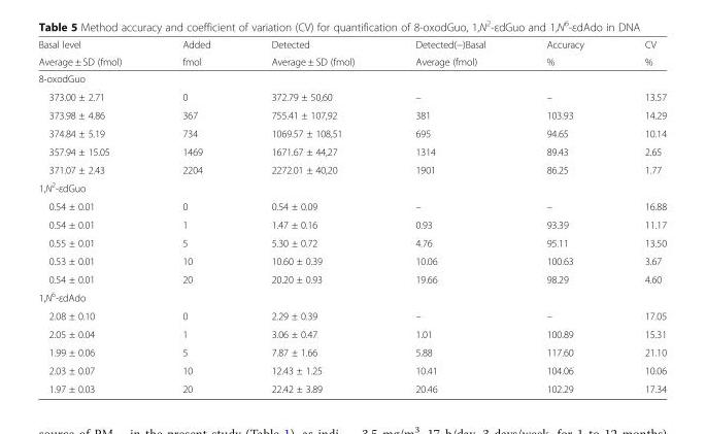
<table><thead><tr><td rowspan="2">Basal level Average ± SD (fmol)</td><td rowspan="2">Added fmol</td><td rowspan="2">Detected Average ± SD (fmol)</td><td rowspan="2">Detected(−)Basal Average (fmol)</td><td rowspan="2">Accuracy %</td><td rowspan="2">CV %</td></tr><tr></tr></thead><tbody><tr><td colspan="6">8-oxodGuo</td></tr><tr><td>373.00 ± 2.71</td><td>0</td><td>372.79 ± 50,60</td><td>–</td><td>–</td><td>13.57</td></tr><tr><td>373.98 ± 4.86</td><td>367</td><td>755.41 ± 107,92</td><td>381</td><td>103.93</td><td>14.29</td></tr><tr><td>374.84 ± 5.19</td><td>734</td><td>1069.57 ± 108,51</td><td>695</td><td>94.65</td><td>10.14</td></tr><tr><td>357.94 ± 15.05</td><td>1469</td><td>1671.67 ± 44,27</td><td>1314</td><td>89.43</td><td>2.65</td></tr><tr><td>371.07 ± 2.43</td><td>2204</td><td>2272.01 ± 40,20</td><td>1901</td><td>86.25</td><td>1.77</td></tr><tr><td colspan="6">1,N<sup>2</sup>-εdGuo</td></tr><tr><td>0.54 ± 0.01</td><td>0</td><td>0.54 ± 0.09</td><td>–</td><td>–</td><td>16.88</td></tr><tr><td>0.54 ± 0.01</td><td>1</td><td>1.47 ± 0.16</td><td>0.93</td><td>93.39</td><td>11.17</td></tr><tr><td>0.55 ± 0.01</td><td>5</td><td>5.30 ± 0.72</td><td>4.76</td><td>95.11</td><td>13.50</td></tr><tr><td>0.53 ± 0.01</td><td>10</td><td>10.60 ± 0.39</td><td>10.06</td><td>100.63</td><td>3.67</td></tr><tr><td>0.54 ± 0.01</td><td>20</td><td>20.20 ± 0.93</td><td>19.66</td><td>98.29</td><td>4.60</td></tr><tr><td colspan="6">1,N<sup>6</sup>-εdAdo</td></tr><tr><td>2.08 ± 0.10</td><td>0</td><td>2.29 ± 0.39</td><td>–</td><td>–</td><td>17.05</td></tr><tr><td>2.05 ± 0.04</td><td>1</td><td>3.06 ± 0.47</td><td>1.01</td><td>100.89</td><td>15.31</td></tr><tr><td>1.99 ± 0.06</td><td>5</td><td>7.87 ± 1.66</td><td>5.88</td><td>117.60</td><td>21.10</td></tr><tr><td>2.03 ± 0.07</td><td>10</td><td>12.43 ± 1.25</td><td>10.41</td><td>104.06</td><td>10.06</td></tr><tr><td>1.97 ± 0.03</td><td>20</td><td>22.42 ± 3.89</td><td>20.46</td><td>102.29</td><td>17.34</td></tr></tbody></table>